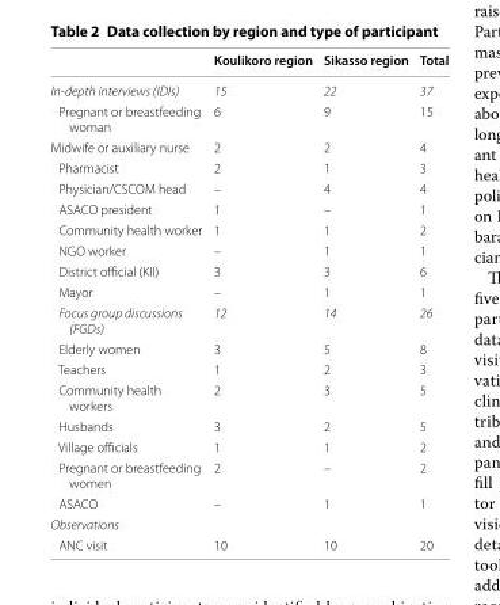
<table><thead><tr><td></td><td>Koulikoro region</td><td>Sikasso region</td><td>Total</td></tr></thead><tbody><tr><td>In-depth interviews (IDIs)</td><td>15</td><td>22</td><td>37</td></tr><tr><td>Pregnant or breastfeeding woman</td><td>6</td><td>9</td><td>15</td></tr><tr><td>Midwife or auxiliary nurse</td><td>2</td><td>2</td><td>4</td></tr><tr><td>Pharmacist</td><td>2</td><td>1</td><td>3</td></tr><tr><td>Physician/CSCOM head</td><td>–</td><td>4</td><td>4</td></tr><tr><td>ASACO president</td><td>1</td><td>–</td><td>1</td></tr><tr><td>Community health worker</td><td>1</td><td>1</td><td>2</td></tr><tr><td>NGO worker</td><td>–</td><td>1</td><td>1</td></tr><tr><td>District official (KII)</td><td>3</td><td>3</td><td>6</td></tr><tr><td>Mayor</td><td>–</td><td>1</td><td>1</td></tr><tr><td>Focus group discussions (FGDs)</td><td>12</td><td>14</td><td>26</td></tr><tr><td>Elderly women</td><td>3</td><td>5</td><td>8</td></tr><tr><td>Teachers</td><td>1</td><td>2</td><td>3</td></tr><tr><td>Community health workers</td><td>2</td><td>3</td><td>5</td></tr><tr><td>Husbands</td><td>3</td><td>2</td><td>5</td></tr><tr><td>Village officials</td><td>1</td><td>1</td><td>2</td></tr><tr><td>Pregnant or breastfeeding women</td><td>2</td><td>–</td><td>2</td></tr><tr><td>ASACO</td><td>–</td><td>1</td><td>1</td></tr><tr><td colspan="4">Observations</td></tr><tr><td>ANC visit</td><td>10</td><td>10</td><td>20</td></tr></tbody></table>